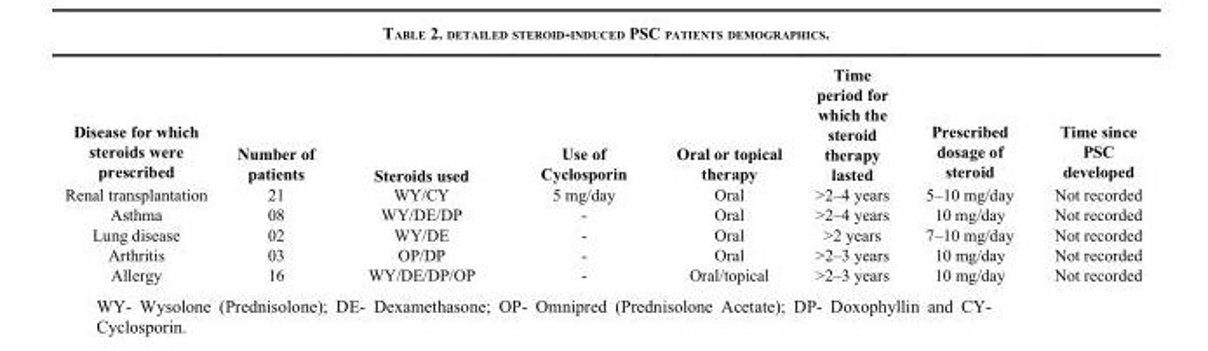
<table><thead><tr><td>Disease for which steroids were prescribed</td><td>Number of patients</td><td>Steroids used</td><td>Use of Cyclosporin</td><td>Oral or topical therapy</td><td>Time period for which the steroid therapy lasted</td><td>Prescribed dosage of steroid</td><td>Time since PSC developed</td></tr></thead><tbody><tr><td>Renal transplantation</td><td>21</td><td>WY/CY</td><td>5 mg/day</td><td>Oral</td><td>&gt;2–4 years</td><td>5–10 mg/day</td><td>Not recorded</td></tr><tr><td>Asthma</td><td>08</td><td>WY/DE/DP</td><td>-</td><td>Oral</td><td>&gt;2–4 years</td><td>10 mg/day</td><td>Not recorded</td></tr><tr><td>Lung disease</td><td>02</td><td>WY/DE</td><td>-</td><td>Oral</td><td>&gt;2 years</td><td>7–10 mg/day</td><td>Not recorded</td></tr><tr><td>Arthritis</td><td>03</td><td>OP/DP</td><td>-</td><td>Oral</td><td>&gt;2–3 years</td><td>10 mg/day</td><td>Not recorded</td></tr><tr><td>Allergy</td><td>16</td><td>WY/DE/DP/OP</td><td>-</td><td>Oral/topical</td><td>&gt;2–3 years</td><td>10 mg/day</td><td>Not recorded</td></tr></tbody></table>